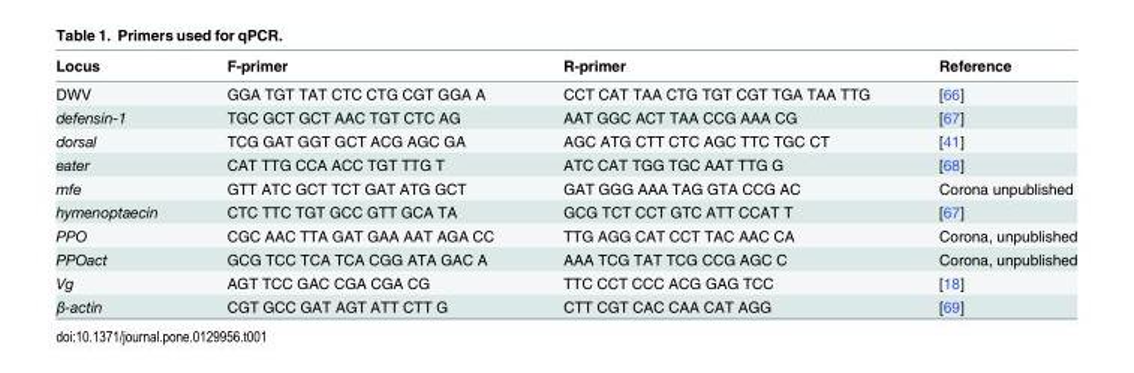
<table><thead><tr><td>Locus</td><td>F-primer</td><td>R-primer</td><td>Reference</td></tr></thead><tbody><tr><td>DWV</td><td>GGA TGT TAT CTC CTG CGT GGA A</td><td>CCT CAT TAA CTG TGT CGT TGA TAA TTG</td><td>[66]</td></tr><tr><td>defensin-1</td><td>TGC GCT GCT AAC TGT CTC AG</td><td>AAT GGC ACT TAA CCG AAA CG</td><td>[67]</td></tr><tr><td>dorsal</td><td>TCG GAT GGT GCT ACG AGC GA</td><td>AGC ATG CTT CTC AGC TTC TGC CT</td><td>[41]</td></tr><tr><td>eater</td><td>CAT TTG CCA ACC TGT TTG T</td><td>ATC CAT TGG TGC AAT TTG G</td><td>[68]</td></tr><tr><td>mfe</td><td>GTT ATC GCT TCT GAT ATG GCT</td><td>GAT GGG AAA TAG GTA CCG AC</td><td>Corona unpublished</td></tr><tr><td>hymenoptaecin</td><td>CTC TTC TGT GCC GTT GCA TA</td><td>GCG TCT CCT GTC ATT CCAT T</td><td>[67]</td></tr><tr><td>PPO</td><td>CGC AAC TTA GAT GAA AAT AGA CC</td><td>TTG AGG CAT CCT TAC AAC CA</td><td>Corona, unpublished</td></tr><tr><td>PPOact</td><td>GCG TCC TCA TCA CGG ATA GAC A</td><td>AAA TCG TAT TCG CCG AGC C</td><td>Corona, unpublished</td></tr><tr><td>Vg</td><td>AGT TCC GAC CGA CGA CG</td><td>TTC CCT CCC ACG GAG TCC</td><td>[18]</td></tr><tr><td>β-actin</td><td>CGT GCC GAT AGT ATT CTT G</td><td>CTT CGT CAC CAA CAT AGG</td><td>[69]</td></tr></tbody></table>